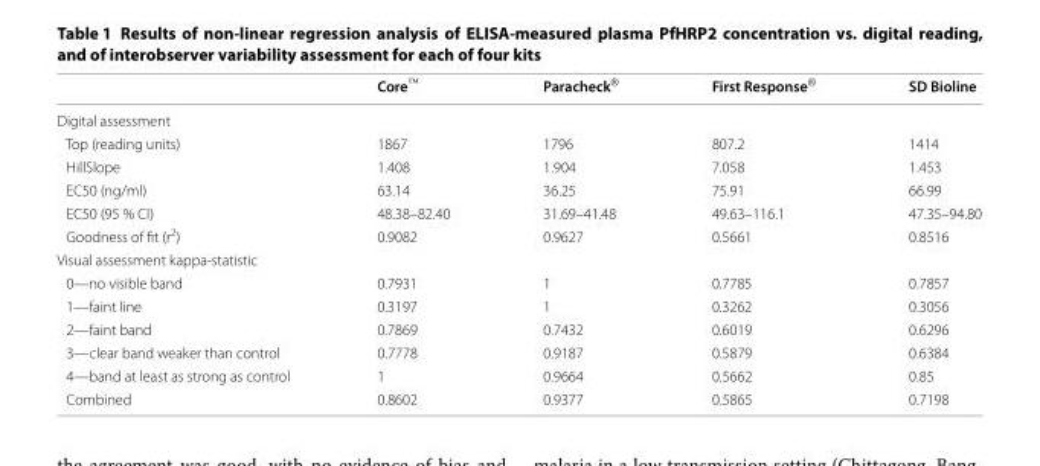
<table><thead><tr><td></td><td>Core™</td><td>Paracheck<sup>®</sup></td><td>First Response<sup>®</sup></td><td>SD Bioline</td></tr></thead><tbody><tr><td colspan="5">Digital assessment</td></tr><tr><td>Top (reading units)</td><td>1867</td><td>1796</td><td>807.2</td><td>1414</td></tr><tr><td>HillSlope</td><td>1.408</td><td>1.904</td><td>7.058</td><td>1.453</td></tr><tr><td>EC50 (ng/ml)</td><td>63.14</td><td>36.25</td><td>75.91</td><td>66.99</td></tr><tr><td>EC50 (95 % CI)</td><td>48.38–82.40</td><td>31.69–41.48</td><td>49.63–116.1</td><td>47.35–94.80</td></tr><tr><td>Goodness of fit (r<sup>2</sup>)</td><td>0.9082</td><td>0.9627</td><td>0.5661</td><td>0.8516</td></tr><tr><td colspan="5">Visual assessment kappa-statistic</td></tr><tr><td>0—no visible band</td><td>0.7931</td><td>1</td><td>0.7785</td><td>0.7857</td></tr><tr><td>1—faint line</td><td>0.3197</td><td>1</td><td>0.3262</td><td>0.3056</td></tr><tr><td>2—faint band</td><td>0.7869</td><td>0.7432</td><td>0.6019</td><td>0.6296</td></tr><tr><td>3—clear band weaker than control</td><td>0.7778</td><td>0.9187</td><td>0.5879</td><td>0.6384</td></tr><tr><td>4—band at least as strong as control</td><td>1</td><td>0.9664</td><td>0.5662</td><td>0.85</td></tr><tr><td>Combined</td><td>0.8602</td><td>0.9377</td><td>0.5865</td><td>0.7198</td></tr></tbody></table>